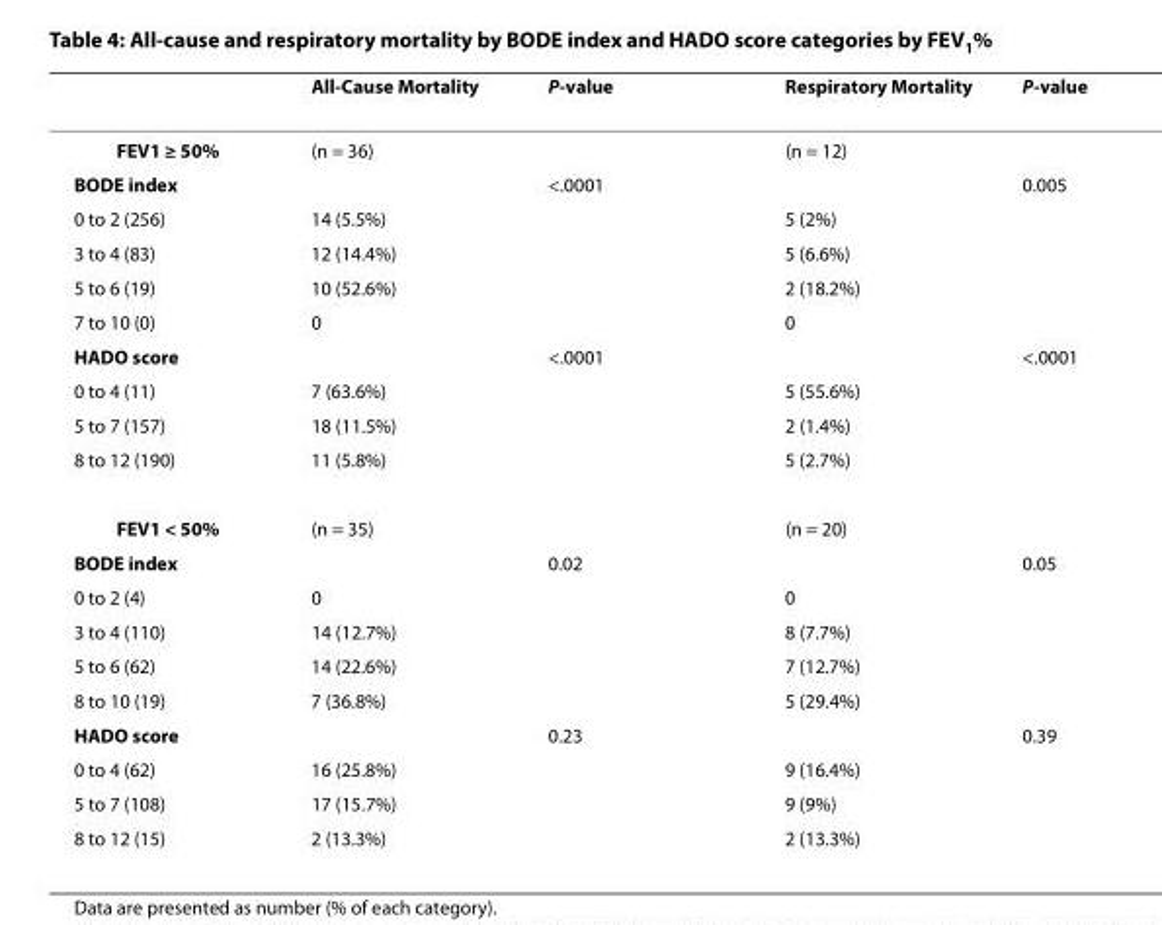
<table><thead><tr><td></td><td>All-Cause Mortality</td><td>P-value</td><td>Respiratory Mortality</td><td>P-value</td></tr></thead><tbody><tr><td>FEV1 ≥ 50%</td><td>(n = 36)</td><td></td><td>(n = 12)</td><td></td></tr><tr><td>BODE index</td><td></td><td>&lt;.0001</td><td></td><td>0.005</td></tr><tr><td>0 to 2 (256)</td><td>14 (5.5%)</td><td></td><td>5 (2%)</td><td></td></tr><tr><td>3 to 4 (83)</td><td>12 (14.4%)</td><td></td><td>5 (6.6%)</td><td></td></tr><tr><td>5 to 6 (19)</td><td>10 (52.6%)</td><td></td><td>2 (18.2%)</td><td></td></tr><tr><td>7 to 10 (0)</td><td>0</td><td></td><td>0</td><td></td></tr><tr><td>HADO score</td><td></td><td>&lt;.0001</td><td></td><td>&lt;.0001</td></tr><tr><td>0 to 4 (11)</td><td>7 (63.6%)</td><td></td><td>5 (55.6%)</td><td></td></tr><tr><td>5 to 7 (157)</td><td>18 (11.5%)</td><td></td><td>2 (1.4%)</td><td></td></tr><tr><td>8 to 12 (190)</td><td>11 (5.8%)</td><td></td><td>5 (2.7%)</td><td></td></tr><tr><td>FEV1 &lt; 50%</td><td>(n = 35)</td><td></td><td>(n = 20)</td><td></td></tr><tr><td>BODE index</td><td></td><td>0.02</td><td></td><td>0.05</td></tr><tr><td>0 to 2 (4)</td><td>0</td><td></td><td>0</td><td></td></tr><tr><td>3 to 4 (110)</td><td>14 (12.7%)</td><td></td><td>8 (7.7%)</td><td></td></tr><tr><td>5 to 6 (62)</td><td>14 (22.6%)</td><td></td><td>7 (12.7%)</td><td></td></tr><tr><td>8 to 10 (19)</td><td>7 (36.8%)</td><td></td><td>5 (29.4%)</td><td></td></tr><tr><td>HADO score</td><td></td><td>0.23</td><td></td><td>0.39</td></tr><tr><td>0 to 4 (62)</td><td>16 (25.8%)</td><td></td><td>9 (16.4%)</td><td></td></tr><tr><td>5 to 7 (108)</td><td>17 (15.7%)</td><td></td><td>9 (9%)</td><td></td></tr><tr><td>8 to 12 (15)</td><td>2 (13.3%)</td><td></td><td>2 (13.3%)</td><td></td></tr></tbody></table>